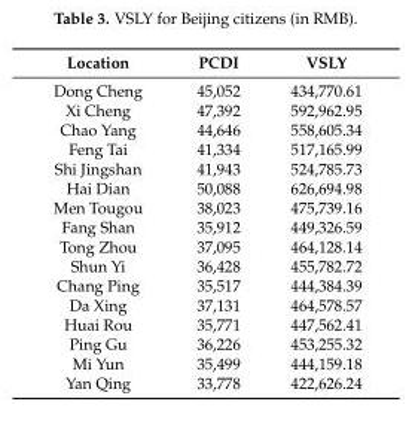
<table><thead><tr><td>Location</td><td>PCDI</td><td>VSLY</td></tr></thead><tbody><tr><td>Dong Cheng</td><td>45,052</td><td>434,770.61</td></tr><tr><td>Xi Cheng</td><td>47,392</td><td>592,962.95</td></tr><tr><td>Chao Yang</td><td>44,646</td><td>558,605.34</td></tr><tr><td>Feng Tai</td><td>41,334</td><td>517,165.99</td></tr><tr><td>Shi Jingshan</td><td>41,943</td><td>524,785.73</td></tr><tr><td>Hai Dian</td><td>50,088</td><td>626,694.98</td></tr><tr><td>Men Tougou</td><td>38,023</td><td>475,739.16</td></tr><tr><td>Fang Shan</td><td>35,912</td><td>449,326.59</td></tr><tr><td>Tong Zhou</td><td>37,095</td><td>464,128.14</td></tr><tr><td>Shun Yi</td><td>36,428</td><td>455,782.72</td></tr><tr><td>Chang Ping</td><td>35,517</td><td>444,384.39</td></tr><tr><td>Da Xing</td><td>37,131</td><td>464,578.57</td></tr><tr><td>Huai Rou</td><td>35,771</td><td>447,562.41</td></tr><tr><td>Ping Gu</td><td>36,226</td><td>453,255.32</td></tr><tr><td>Mi Yun</td><td>35,499</td><td>444,159.18</td></tr><tr><td>Yan Qing</td><td>33,778</td><td>422,626.24</td></tr></tbody></table>